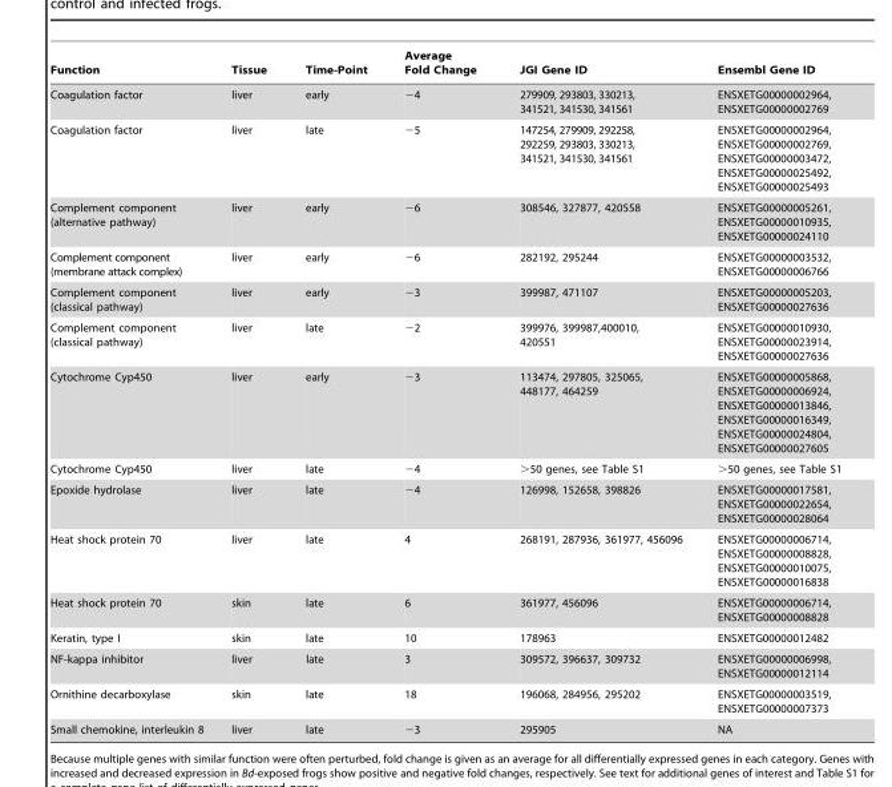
<table><thead><tr><td>Function</td><td>Tissue</td><td>Time-Point</td><td>Average Fold Change</td><td>JGI Gene ID</td><td>Ensembl Gene ID</td></tr></thead><tbody><tr><td>Coagulation factor</td><td>liver</td><td>early</td><td>−4</td><td>279909, 293803, 330213, 341521, 341530, 341561</td><td>ENSXETG00000002964, ENSXETG00000002769</td></tr><tr><td>Coagulation factor</td><td>liver</td><td>late</td><td>−5</td><td>147254, 279909, 292258, 292259, 293803, 330213, 341521, 341530, 341561</td><td>ENSXETG00000002964, ENSXETG00000002769, ENSXETG00000003472, ENSXETG00000025492, ENSXETG00000025493</td></tr><tr><td>Complement component (alternative pathway)</td><td>liver</td><td>early</td><td>−6</td><td>308546, 327877, 420558</td><td>ENSXETG00000005261, ENSXETG00000010935, ENSXETG00000024110</td></tr><tr><td>Complement component (membrane attack complex)</td><td>liver</td><td>early</td><td>−6</td><td>282192, 295244</td><td>ENSXETG00000003532, ENSXETG00000006766</td></tr><tr><td>Complement component (classical pathway)</td><td>liver</td><td>early</td><td>−3</td><td>399987, 471107</td><td>ENSXETG00000005203, ENSXETG00000027636</td></tr><tr><td>Complement component (classical pathway)</td><td>liver</td><td>late</td><td>−2</td><td>399976, 399987,400010, 420551</td><td>ENSXETG00000010930, ENSXETG00000023914, ENSXETG00000027636</td></tr><tr><td>Cytochrome Cyp450</td><td>liver</td><td>early</td><td>−3</td><td>113474, 297805, 325065, 448177, 464259</td><td>ENSXETG00000005868, ENSXETG00000006924, ENSXETG00000013846, ENSXETG00000016349, ENSXETG00000024804, ENSXETG00000027605</td></tr><tr><td>Cytochrome Cyp450</td><td>liver</td><td>late</td><td>−4</td><td>&gt;50 genes, see Table S1</td><td>&gt;50 genes, see Table S1</td></tr><tr><td>Epoxide hydrolase</td><td>liver</td><td>late</td><td>−4</td><td>126998, 152658, 398826</td><td>ENSXETG00000017581, ENSXETG00000022654, ENSXETG00000028064</td></tr><tr><td>Heat shock protein 70</td><td>liver</td><td>late</td><td>4</td><td>268191, 287936, 361977, 456096</td><td>ENSXETG00000006714, ENSXETG00000008828, ENSXETG00000010075, ENSXETG00000016838</td></tr><tr><td>Heat shock protein 70</td><td>skin</td><td>late</td><td>6</td><td>361977, 456096</td><td>ENSXETG00000006714, ENSXETG00000008828</td></tr><tr><td>Keratin, type I</td><td>skin</td><td>late</td><td>10</td><td>178963</td><td>ENSXETG00000012482</td></tr><tr><td>NF-kappa inhibitor</td><td>liver</td><td>late</td><td>3</td><td>309572, 396637, 309732</td><td>ENSXETG00000006998, ENSXETG00000012114</td></tr><tr><td>Ornithine decarboxylase</td><td>skin</td><td>late</td><td>18</td><td>196068, 284956, 295202</td><td>ENSXETG00000003519, ENSXETG00000007373</td></tr><tr><td>Small chemokine, interleukin 8</td><td>liver</td><td>late</td><td>−3</td><td>295905</td><td>NA</td></tr></tbody></table>